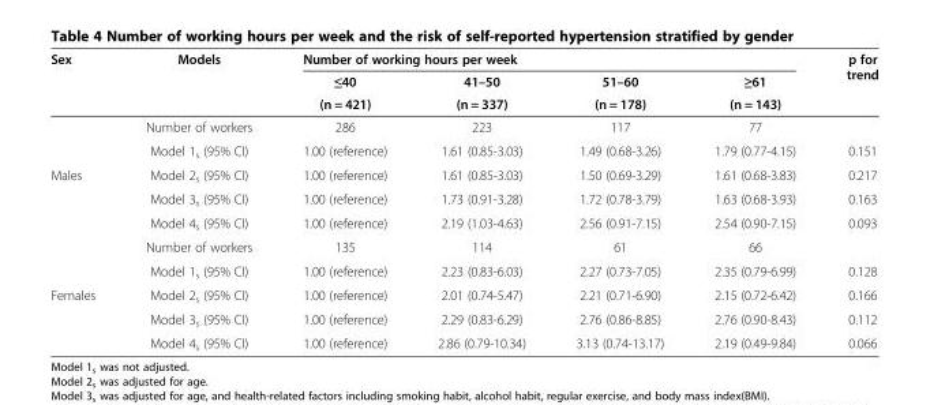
<table><thead><tr><td rowspan="3">Sex</td><td rowspan="3">Models</td><td colspan="4">Number of working hours per week</td><td rowspan="3">p for trend</td></tr><tr><td rowspan="2">≤40 (n = 421)</td><td rowspan="2">41–50 (n = 337)</td><td rowspan="2">51–60 (n = 178)</td><td rowspan="2">≥61 (n = 143)</td></tr><tr></tr></thead><tbody><tr><td rowspan="5">Males</td><td>Number of workers</td><td>286</td><td>223</td><td>117</td><td>77</td><td></td></tr><tr><td>Model 1<sub>s</sub> (95% CI)</td><td>1.00 (reference)</td><td>1.61 (0.85-3.03)</td><td>1.49 (0.68-3.26)</td><td>1.79 (0.77-4.15)</td><td>0.151</td></tr><tr><td>Model 2<sub>s</sub> (95% CI)</td><td>1.00 (reference)</td><td>1.61 (0.85-3.03)</td><td>1.50 (0.69-3.29)</td><td>1.61 (0.68-3.83)</td><td>0.217</td></tr><tr><td>Model 3<sub>s</sub> (95% CI)</td><td>1.00 (reference)</td><td>1.73 (0.91-3.28)</td><td>1.72 (0.78-3.79)</td><td>1.63 (0.68-3.93)</td><td>0.163</td></tr><tr><td>Model 4<sub>s</sub> (95% CI)</td><td>1.00 (reference)</td><td>2.19 (1.03-4.63)</td><td>2.56 (0.91-7.15)</td><td>2.54 (0.90-7.15)</td><td>0.093</td></tr><tr><td rowspan="5">Females</td><td>Number of workers</td><td>135</td><td>114</td><td>61</td><td>66</td><td></td></tr><tr><td>Model 1<sub>s</sub> (95% CI)</td><td>1.00 (reference)</td><td>2.23 (0.83-6.03)</td><td>2.27 (0.73-7.05)</td><td>2.35 (0.79-6.99)</td><td>0.128</td></tr><tr><td>Model 2<sub>s</sub> (95% CI)</td><td>1.00 (reference)</td><td>2.01 (0.74-5.47)</td><td>2.21 (0.71-6.90)</td><td>2.15 (0.72-6.42)</td><td>0.166</td></tr><tr><td>Model 3<sub>s</sub> (95% CI)</td><td>1.00 (reference)</td><td>2.29 (0.83-6.29)</td><td>2.76 (0.86-8.85)</td><td>2.76 (0.90-8.43)</td><td>0.112</td></tr><tr><td>Model 4<sub>s</sub> (95% CI)</td><td>1.00 (reference)</td><td>2.86 (0.79-10.34)</td><td>3.13 (0.74-13.17)</td><td>2.19 (0.49-9.84)</td><td>0.066</td></tr></tbody></table>